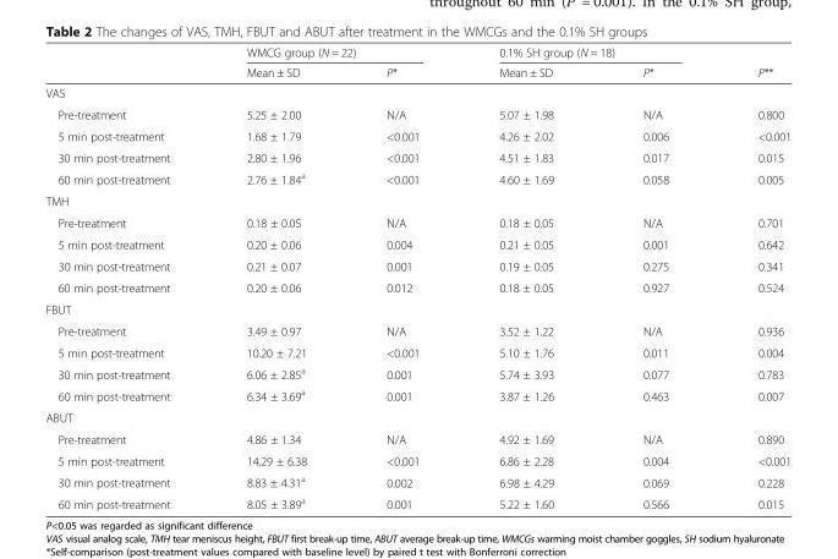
<table><thead><tr><td rowspan="2"></td><td colspan="2">WMCG group (N = 22)</td><td colspan="2">0.1% SH group (N = 18)</td><td rowspan="2">P**</td></tr><tr><td>Mean ± SD</td><td>P*</td><td>Mean ± SD</td><td>P*</td></tr></thead><tbody><tr><td colspan="6">VAS</td></tr><tr><td>Pre-treatment</td><td>5.25 ± 2.00</td><td>N/A</td><td>5.07 ± 1.98</td><td>N/A</td><td>0.800</td></tr><tr><td>5 min post-treatment</td><td>1.68 ± 1.79</td><td>&lt;0.001</td><td>4.26 ± 2.02</td><td>0.006</td><td>&lt;0.001</td></tr><tr><td>30 min post-treatment</td><td>2.80 ± 1.96</td><td>&lt;0.001</td><td>4.51 ± 1.83</td><td>0.017</td><td>0.015</td></tr><tr><td>60 min post-treatment</td><td>2.76 ± 1.84<sup>a</sup></td><td>&lt;0.001</td><td>4.60 ± 1.69</td><td>0.058</td><td>0.005</td></tr><tr><td colspan="6">TMH</td></tr><tr><td>Pre-treatment</td><td>0.18 ± 0.05</td><td>N/A</td><td>0.18 ± 0.05</td><td>N/A</td><td>0.701</td></tr><tr><td>5 min post-treatment</td><td>0.20 ± 0.06</td><td>0.004</td><td>0.21 ± 0.05</td><td>0.001</td><td>0.642</td></tr><tr><td>30 min post-treatment</td><td>0.21 ± 0.07</td><td>0.001</td><td>0.19 ± 0.05</td><td>0.275</td><td>0.341</td></tr><tr><td>60 min post-treatment</td><td>0.20 ± 0.06</td><td>0.012</td><td>0.18 ± 0.05</td><td>0.927</td><td>0.524</td></tr><tr><td colspan="6">FBUT</td></tr><tr><td>Pre-treatment</td><td>3.49 ± 0.97</td><td>N/A</td><td>3.52 ± 1.22</td><td>N/A</td><td>0.936</td></tr><tr><td>5 min post-treatment</td><td>10.20 ± 7.21</td><td>&lt;0.001</td><td>5.10 ± 1.76</td><td>0.011</td><td>0.004</td></tr><tr><td>30 min post-treatment</td><td>6.06 ± 2.85<sup>a</sup></td><td>0.001</td><td>5.74 ± 3.93</td><td>0.077</td><td>0.783</td></tr><tr><td>60 min post-treatment</td><td>6.34 ± 3.69<sup>a</sup></td><td>0.001</td><td>3.87 ± 1.26</td><td>0.463</td><td>0.007</td></tr><tr><td colspan="6">ABUT</td></tr><tr><td>Pre-treatment</td><td>4.86 ± 1.34</td><td>N/A</td><td>4.92 ± 1.69</td><td>N/A</td><td>0.890</td></tr><tr><td>5 min post-treatment</td><td>14.29 ± 6.38</td><td>&lt;0.001</td><td>6.86 ± 2.28</td><td>0.004</td><td>&lt;0.001</td></tr><tr><td>30 min post-treatment</td><td>8.83 ± 4.31<sup>a</sup></td><td>0.002</td><td>6.98 ± 4.29</td><td>0.069</td><td>0.228</td></tr><tr><td>60 min post-treatment</td><td>8.05 ± 3.89<sup>a</sup></td><td>0.001</td><td>5.22 ± 1.60</td><td>0.566</td><td>0.015</td></tr></tbody></table>